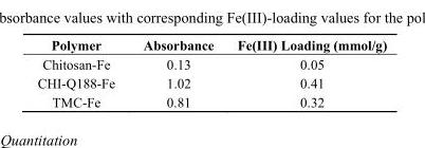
<table><thead><tr><td>Polymer</td><td>Absorbance</td><td>Fe(III) Loading (mmol/g)</td></tr></thead><tbody><tr><td>Chitosan-Fe</td><td>0.13</td><td>0.05</td></tr><tr><td>CHI-Q188-Fe</td><td>1.02</td><td>0.41</td></tr><tr><td>TMC-Fe</td><td>0.81</td><td>0.32</td></tr></tbody></table>